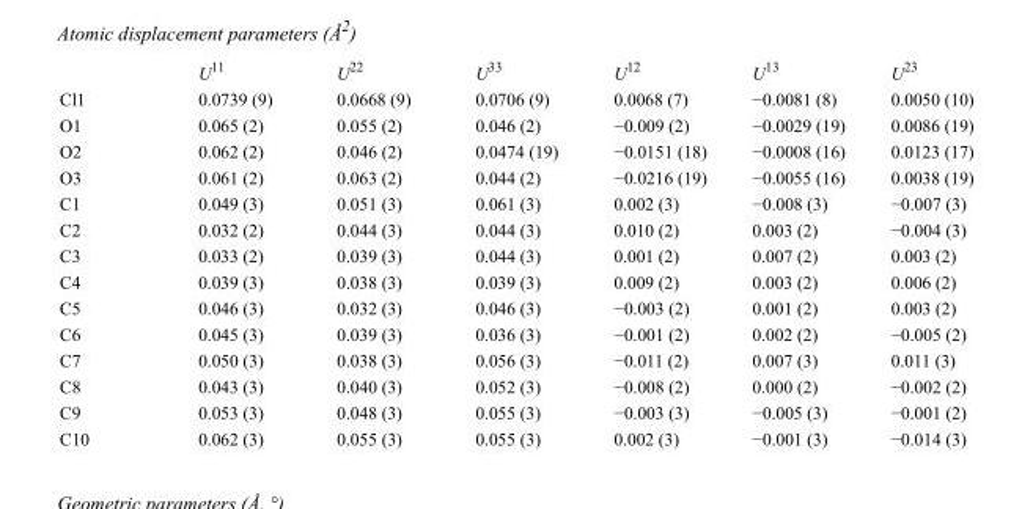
<table><thead><tr><td></td><td>U<sup>11</sup></td><td>U<sup>22</sup></td><td>U<sup>33</sup></td><td>U<sup>12</sup></td><td>U<sup>13</sup></td><td>U<sup>23</sup></td></tr></thead><tbody><tr><td>Cl1</td><td>0.0739 (9)</td><td>0.0668 (9)</td><td>0.0706 (9)</td><td>0.0068 (7)</td><td>−0.0081 (8)</td><td>0.0050 (10)</td></tr><tr><td>O1</td><td>0.065 (2)</td><td>0.055 (2)</td><td>0.046 (2)</td><td>−0.009 (2)</td><td>−0.0029 (19)</td><td>0.0086 (19)</td></tr><tr><td>O2</td><td>0.062 (2)</td><td>0.046 (2)</td><td>0.0474 (19)</td><td>−0.0151 (18)</td><td>−0.0008 (16)</td><td>0.0123 (17)</td></tr><tr><td>O3</td><td>0.061 (2)</td><td>0.063 (2)</td><td>0.044 (2)</td><td>−0.0216 (19)</td><td>−0.0055 (16)</td><td>0.0038 (19)</td></tr><tr><td>C1</td><td>0.049 (3)</td><td>0.051 (3)</td><td>0.061 (3)</td><td>0.002 (3)</td><td>−0.008 (3)</td><td>−0.007 (3)</td></tr><tr><td>C2</td><td>0.032 (2)</td><td>0.044 (3)</td><td>0.044 (3)</td><td>0.010 (2)</td><td>0.003 (2)</td><td>−0.004 (3)</td></tr><tr><td>C3</td><td>0.033 (2)</td><td>0.039 (3)</td><td>0.044 (3)</td><td>0.001 (2)</td><td>0.007 (2)</td><td>0.003 (2)</td></tr><tr><td>C4</td><td>0.039 (3)</td><td>0.038 (3)</td><td>0.039 (3)</td><td>0.009 (2)</td><td>0.003 (2)</td><td>0.006 (2)</td></tr><tr><td>C5</td><td>0.046 (3)</td><td>0.032 (3)</td><td>0.046 (3)</td><td>−0.003 (2)</td><td>0.001 (2)</td><td>0.003 (2)</td></tr><tr><td>C6</td><td>0.045 (3)</td><td>0.039 (3)</td><td>0.036 (3)</td><td>−0.001 (2)</td><td>0.002 (2)</td><td>−0.005 (2)</td></tr><tr><td>C7</td><td>0.050 (3)</td><td>0.038 (3)</td><td>0.056 (3)</td><td>−0.011 (2)</td><td>0.007 (3)</td><td>0.011 (3)</td></tr><tr><td>C8</td><td>0.043 (3)</td><td>0.040 (3)</td><td>0.052 (3)</td><td>−0.008 (2)</td><td>0.000 (2)</td><td>−0.002 (2)</td></tr><tr><td>C9</td><td>0.053 (3)</td><td>0.048 (3)</td><td>0.055 (3)</td><td>−0.003 (3)</td><td>−0.005 (3)</td><td>−0.001 (2)</td></tr><tr><td>C10</td><td>0.062 (3)</td><td>0.055 (3)</td><td>0.055 (3)</td><td>0.002 (3)</td><td>−0.001 (3)</td><td>−0.014 (3)</td></tr></tbody></table>